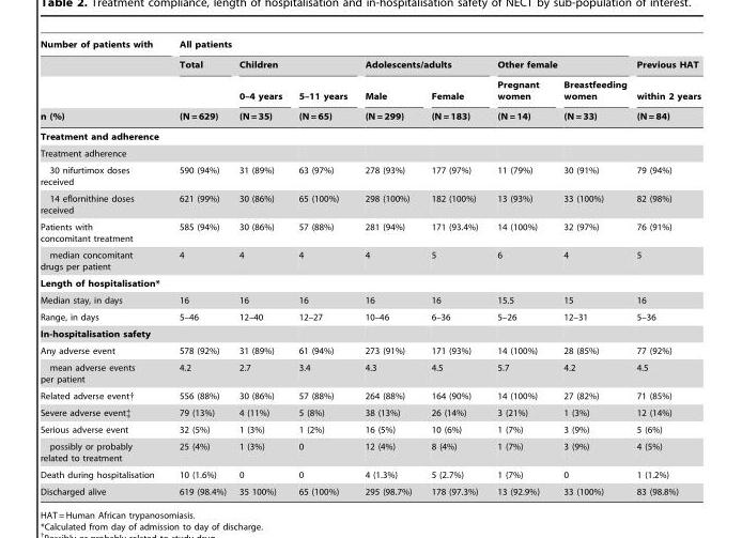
<table><thead><tr><td rowspan="4">Number of patients with n (%)</td><td colspan="7">All patients</td><td rowspan="4">Previous HAT within 2 years (N = 84)</td></tr><tr><td rowspan="3">Total (N = 629)</td><td colspan="2">Children</td><td colspan="2">Adolescents/adults</td><td colspan="2">Other female</td></tr><tr><td rowspan="2">0–4 years (N = 35)</td><td rowspan="2">5–11 years (N = 65)</td><td rowspan="2">Male (N = 299)</td><td rowspan="2">Female (N = 183)</td><td rowspan="2">Pregnant women (N = 14)</td><td rowspan="2">Breastfeeding women (N = 33)</td></tr><tr></tr></thead><tbody><tr><td colspan="9">Treatment and adherence</td></tr><tr><td colspan="9">Treatment adherence</td></tr><tr><td>30 nifurtimox doses received</td><td>590 (94%)</td><td>31 (89%)</td><td>63 (97%)</td><td>278 (93%)</td><td>177 (97%)</td><td>11 (79%)</td><td>30 (91%)</td><td>79 (94%)</td></tr><tr><td>14 eflornithine doses received</td><td>621 (99%)</td><td>30 (86%)</td><td>65 (100%)</td><td>298 (100%)</td><td>182 (100%)</td><td>13 (93%)</td><td>33 (100%)</td><td>82 (98%)</td></tr><tr><td>Patients with concomitant treatment</td><td>585 (94%)</td><td>30 (86%)</td><td>57 (88%)</td><td>281 (94%)</td><td>171 (93.4%)</td><td>14 (100%)</td><td>32 (97%)</td><td>76 (91%)</td></tr><tr><td>median concomitant drugs per patient</td><td>4</td><td>4</td><td>4</td><td>4</td><td>5</td><td>6</td><td>4</td><td>5</td></tr><tr><td colspan="9">Length of hospitalisation*</td></tr><tr><td>Median stay, in days</td><td>16</td><td>16</td><td>16</td><td>16</td><td>16</td><td>15.5</td><td>15</td><td>16</td></tr><tr><td>Range, in days</td><td>5–46</td><td>12–40</td><td>12–27</td><td>10–46</td><td>6–36</td><td>5–26</td><td>12–31</td><td>5–36</td></tr><tr><td colspan="9">In-hospitalisation safety</td></tr><tr><td>Any adverse event</td><td>578 (92%)</td><td>31 (89%)</td><td>61 (94%)</td><td>273 (91%)</td><td>171 (93%)</td><td>14 (100%)</td><td>28 (85%)</td><td>77 (92%)</td></tr><tr><td>mean adverse events per patient</td><td>4.2</td><td>2.7</td><td>3.4</td><td>4.3</td><td>4.5</td><td>5.7</td><td>4.2</td><td>4.5</td></tr><tr><td>Related adverse event†</td><td>556 (88%)</td><td>30 (86%)</td><td>57 (88%)</td><td>264 (88%)</td><td>164 (90%)</td><td>14 (100%)</td><td>27 (82%)</td><td>71 (85%)</td></tr><tr><td>Severe adverse event‡</td><td>79 (13%)</td><td>4 (11%)</td><td>5 (8%)</td><td>38 (13%)</td><td>26 (14%)</td><td>3 (21%)</td><td>1 (3%)</td><td>12 (14%)</td></tr><tr><td>Serious adverse event</td><td>32 (5%)</td><td>1 (3%)</td><td>1 (2%)</td><td>16 (5%)</td><td>10 (6%)</td><td>1 (7%)</td><td>3 (9%)</td><td>5 (6%)</td></tr><tr><td>possibly or probably related to treatment</td><td>25 (4%)</td><td>1 (3%)</td><td>0</td><td>12 (4%)</td><td>8 (4%)</td><td>1 (7%)</td><td>3 (9%)</td><td>4 (5%)</td></tr><tr><td>Death during hospitalisation</td><td>10 (1.6%)</td><td>0</td><td>0</td><td>4 (1.3%)</td><td>5 (2.7%)</td><td>1 (7%)</td><td>0</td><td>1 (1.2%)</td></tr><tr><td>Discharged alive</td><td>619 (98.4%)</td><td>35 100%)</td><td>65 (100%)</td><td>295 (98.7%)</td><td>178 (97.3%)</td><td>13 (92.9%)</td><td>33 (100%)</td><td>83 (98.8%)</td></tr></tbody></table>